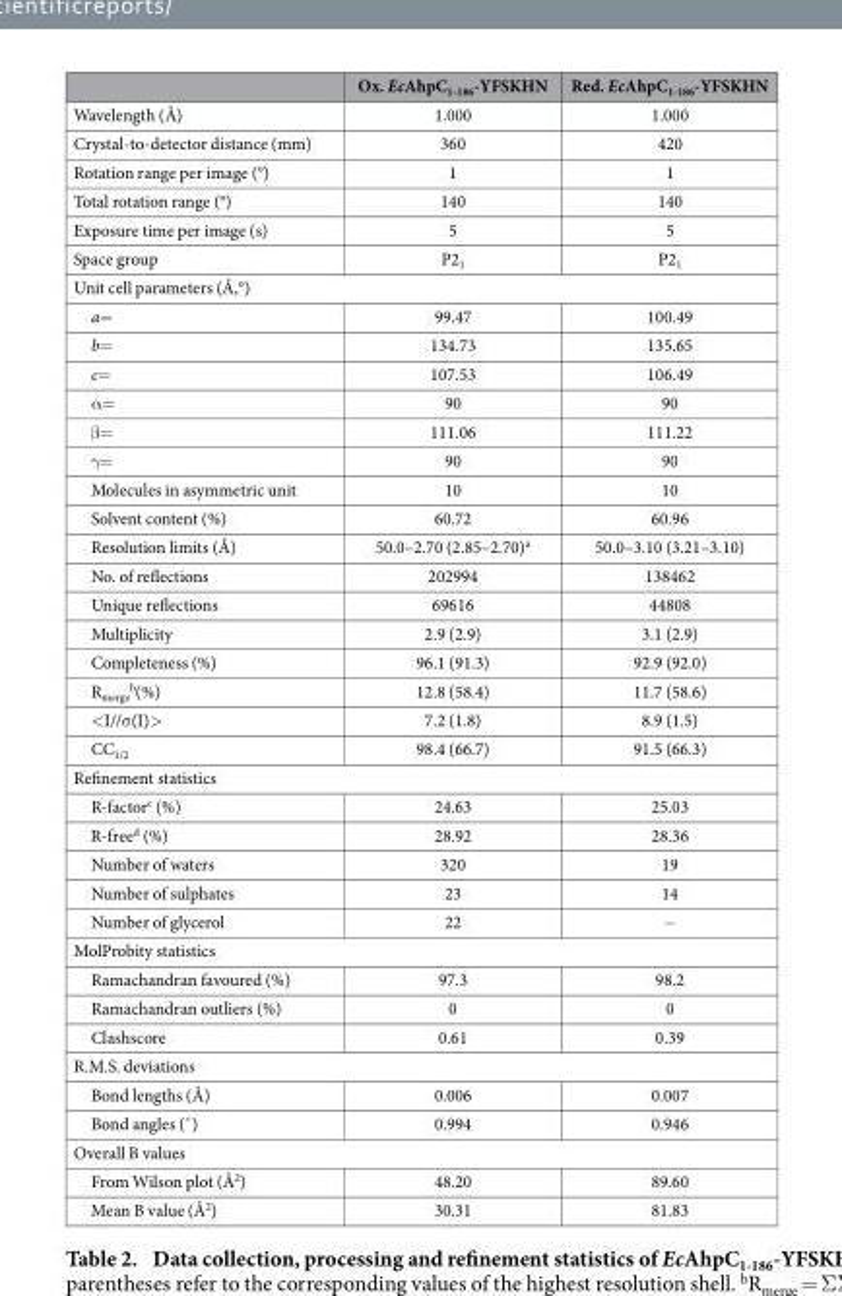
<table><thead><tr><td></td><td>Ox. EcAhpC<sub>1-186</sub>-YFSKHN</td><td>Red. EcAhpC<sub>1-186</sub>-YFSKHN</td></tr></thead><tbody><tr><td>Wavelength (Å)</td><td>1.000</td><td>1.000</td></tr><tr><td>Crystal-to-detector distance (mm)</td><td>360</td><td>420</td></tr><tr><td>Rotation range per image (°)</td><td>1</td><td>1</td></tr><tr><td>Total rotation range (°)</td><td>140</td><td>140</td></tr><tr><td>Exposure time per image (s)</td><td>5</td><td>5</td></tr><tr><td>Space group</td><td>P2<sub>1</sub></td><td>P2<sub>1</sub></td></tr><tr><td colspan="3">Unit cell parameters (Å,°)</td></tr><tr><td>a=</td><td>99.47</td><td>100.49</td></tr><tr><td>b=</td><td>134.73</td><td>135.65</td></tr><tr><td>c=</td><td>107.53</td><td>106.49</td></tr><tr><td>α =</td><td>90</td><td>90</td></tr><tr><td>β =</td><td>111.06</td><td>111.22</td></tr><tr><td>γ =</td><td>90</td><td>90</td></tr><tr><td>Molecules in asymmetric unit</td><td>10</td><td>10</td></tr><tr><td>Solvent content (%)</td><td>60.72</td><td>60.96</td></tr><tr><td>Resolution limits (Å)</td><td>50.0–2.70 (2.85–2.70)<sup>a</sup></td><td>50.0–3.10 (3.21–3.10)</td></tr><tr><td>No. of reflections</td><td>202994</td><td>138462</td></tr><tr><td>Unique reflections</td><td>69616</td><td>44808</td></tr><tr><td>Multiplicity</td><td>2.9 (2.9)</td><td>3.1 (2.9)</td></tr><tr><td>Completeness (%)</td><td>96.1 (91.3)</td><td>92.9 (92.0)</td></tr><tr><td>R<sub>merge</sub> <sup>b</sup>(%)</td><td>12.8 (58.4)</td><td>11.7 (58.6)</td></tr><tr><td>&lt; I//σ(I)&gt;</td><td>7.2 (1.8)</td><td>8.9 (1.5)</td></tr><tr><td>CC<sub>1/2</sub></td><td>98.4 (66.7)</td><td>91.5 (66.3)</td></tr><tr><td colspan="3">Refinement statistics</td></tr><tr><td>R-factor<sup>c</sup> (%)</td><td>24.63</td><td>25.03</td></tr><tr><td>R-free<sup>d</sup> (%)</td><td>28.92</td><td>28.36</td></tr><tr><td>Number of waters</td><td>320</td><td>19</td></tr><tr><td>Number of sulphates</td><td>23</td><td>14</td></tr><tr><td>Number of glycerol</td><td>22</td><td>−</td></tr><tr><td colspan="3">MolProbity statistics</td></tr><tr><td>Ramachandran favoured (%)</td><td>97.3</td><td>98.2</td></tr><tr><td>Ramachandran outliers (%)</td><td>0</td><td>0</td></tr><tr><td>Clashscore</td><td>0.61</td><td>0.39</td></tr><tr><td colspan="3">R.M.S. deviations</td></tr><tr><td>Bond lengths (Å)</td><td>0.006</td><td>0.007</td></tr><tr><td>Bond angles (˚)</td><td>0.994</td><td>0.946</td></tr><tr><td colspan="3">Overall B values</td></tr><tr><td>From Wilson plot (Å<sup>2</sup>)</td><td>48.20</td><td>89.60</td></tr><tr><td>Mean B value (Å<sup>2</sup>)</td><td>30.31</td><td>81.83</td></tr></tbody></table>